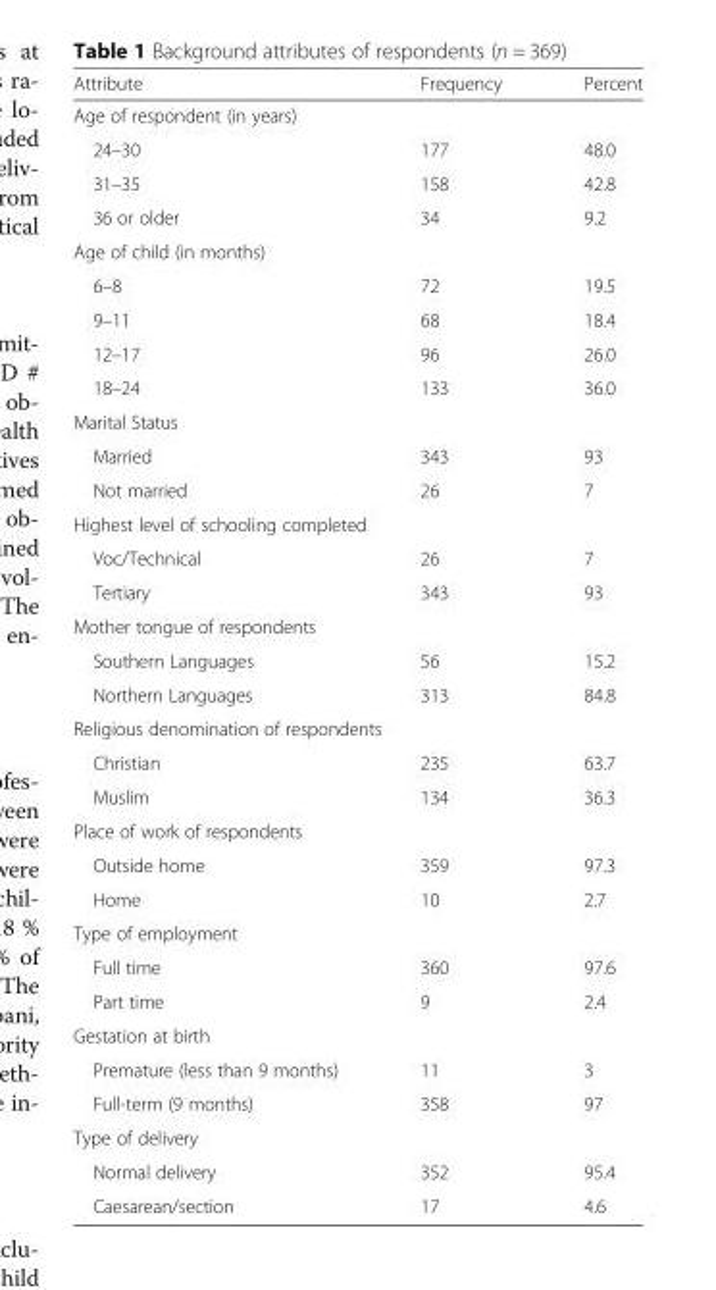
<table><thead><tr><td>Attribute</td><td>Frequency</td><td>Percent</td></tr></thead><tbody><tr><td colspan="3">Age of respondent (in years)</td></tr><tr><td>24–30</td><td>177</td><td>48.0</td></tr><tr><td>31–35</td><td>158</td><td>42.8</td></tr><tr><td>36 or older</td><td>34</td><td>9.2</td></tr><tr><td colspan="3">Age of child (in months)</td></tr><tr><td>6–8</td><td>72</td><td>19.5</td></tr><tr><td>9–11</td><td>68</td><td>18.4</td></tr><tr><td>12–17</td><td>96</td><td>26.0</td></tr><tr><td>18–24</td><td>133</td><td>36.0</td></tr><tr><td colspan="3">Marital Status</td></tr><tr><td>Married</td><td>343</td><td>93</td></tr><tr><td>Not married</td><td>26</td><td>7</td></tr><tr><td colspan="3">Highest level of schooling completed</td></tr><tr><td>Voc/Technical</td><td>26</td><td>7</td></tr><tr><td>Tertiary</td><td>343</td><td>93</td></tr><tr><td colspan="3">Mother tongue of respondents</td></tr><tr><td>Southern Languages</td><td>56</td><td>15.2</td></tr><tr><td>Northern Languages</td><td>313</td><td>84.8</td></tr><tr><td colspan="3">Religious denomination of respondents</td></tr><tr><td>Christian</td><td>235</td><td>63.7</td></tr><tr><td>Muslim</td><td>134</td><td>36.3</td></tr><tr><td colspan="3">Place of work of respondents</td></tr><tr><td>Outside home</td><td>359</td><td>97.3</td></tr><tr><td>Home</td><td>10</td><td>2.7</td></tr><tr><td colspan="3">Type of employment</td></tr><tr><td>Full time</td><td>360</td><td>97.6</td></tr><tr><td>Part time</td><td>9</td><td>2.4</td></tr><tr><td colspan="3">Gestation at birth</td></tr><tr><td>Premature (less than 9 months)</td><td>11</td><td>3</td></tr><tr><td>Full-term (9 months)</td><td>358</td><td>97</td></tr><tr><td colspan="3">Type of delivery</td></tr><tr><td>Normal delivery</td><td>352</td><td>95.4</td></tr><tr><td>Caesarean/section</td><td>17</td><td>4.6</td></tr></tbody></table>